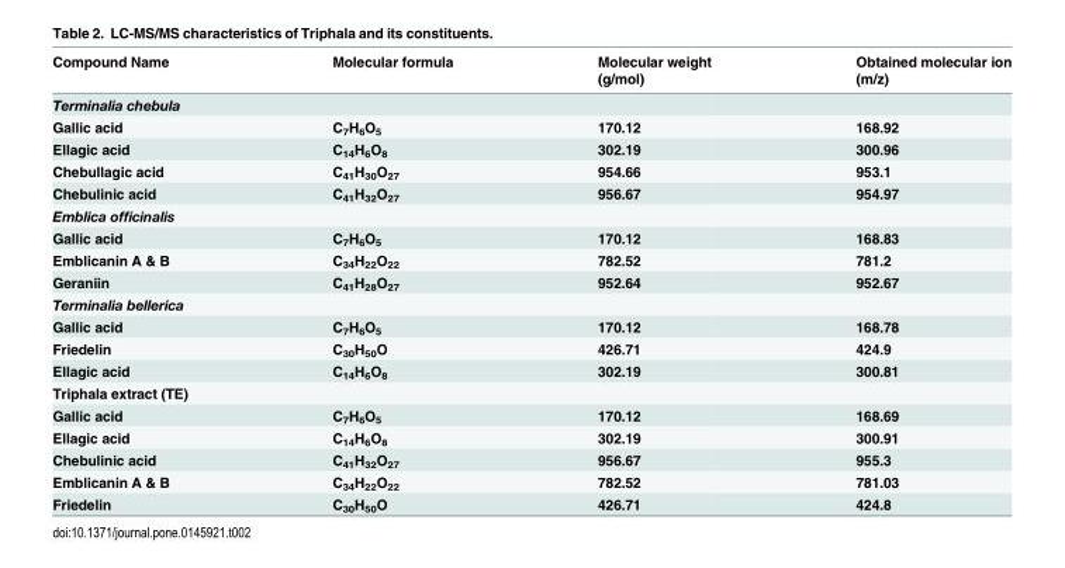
<table><thead><tr><td rowspan="2">Compound Name</td><td rowspan="2">Molecular formula</td><td rowspan="2">Molecular weight (g/mol)</td><td rowspan="2">Obtained molecular ion (m/z)</td></tr><tr></tr></thead><tbody><tr><td colspan="4">Terminalia chebula</td></tr><tr><td>Gallic acid</td><td>C<sub>7</sub>H<sub>6</sub>O<sub>5</sub></td><td>170.12</td><td>168.92</td></tr><tr><td>Ellagic acid</td><td>C<sub>14</sub>H<sub>6</sub>O<sub>8</sub></td><td>302.19</td><td>300.96</td></tr><tr><td>Chebullagic acid</td><td>C<sub>41</sub>H<sub>30</sub>O<sub>27</sub></td><td>954.66</td><td>953.1</td></tr><tr><td>Chebulinic acid</td><td>C<sub>41</sub>H<sub>32</sub>O<sub>27</sub></td><td>956.67</td><td>954.97</td></tr><tr><td colspan="4">Emblica officinalis</td></tr><tr><td>Gallic acid</td><td>C<sub>7</sub>H<sub>6</sub>O<sub>5</sub></td><td>170.12</td><td>168.83</td></tr><tr><td>Emblicanin A &amp; B</td><td>C<sub>34</sub>H<sub>22</sub>O<sub>22</sub></td><td>782.52</td><td>781.2</td></tr><tr><td>Geraniin</td><td>C<sub>41</sub>H<sub>28</sub>O<sub>27</sub></td><td>952.64</td><td>952.67</td></tr><tr><td colspan="4">Terminalia bellerica</td></tr><tr><td>Gallic acid</td><td>C<sub>7</sub>H<sub>6</sub>O<sub>5</sub></td><td>170.12</td><td>168.78</td></tr><tr><td>Friedelin</td><td>C<sub>30</sub>H<sub>50</sub>O</td><td>426.71</td><td>424.9</td></tr><tr><td>Ellagic acid</td><td>C<sub>14</sub>H<sub>6</sub>O<sub>8</sub></td><td>302.19</td><td>300.81</td></tr><tr><td colspan="4">Triphala extract (TE)</td></tr><tr><td>Gallic acid</td><td>C<sub>7</sub>H<sub>6</sub>O<sub>5</sub></td><td>170.12</td><td>168.69</td></tr><tr><td>Ellagic acid</td><td>C<sub>14</sub>H<sub>6</sub>O<sub>8</sub></td><td>302.19</td><td>300.91</td></tr><tr><td>Chebulinic acid</td><td>C<sub>41</sub>H<sub>32</sub>O<sub>27</sub></td><td>956.67</td><td>955.3</td></tr><tr><td>Emblicanin A &amp; B</td><td>C<sub>34</sub>H<sub>22</sub>O<sub>22</sub></td><td>782.52</td><td>781.03</td></tr><tr><td>Friedelin</td><td>C<sub>30</sub>H<sub>50</sub>O</td><td>426.71</td><td>424.8</td></tr></tbody></table>